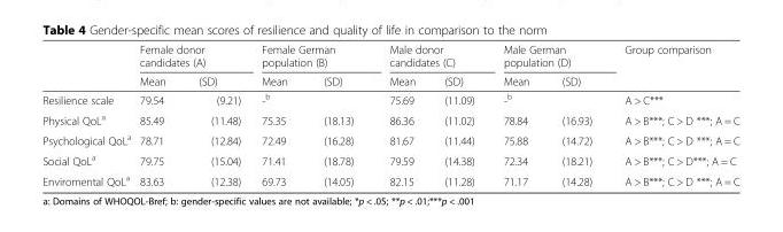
<table><thead><tr><td rowspan="2"></td><td colspan="2">Female donor candidates (A)</td><td colspan="2">Female German population (B)</td><td colspan="2">Male donor candidates (C)</td><td colspan="2">Male German population (D)</td><td rowspan="2">Group comparison</td></tr><tr><td>Mean</td><td>(SD)</td><td>Mean</td><td>(SD)</td><td>Mean</td><td>(SD)</td><td>Mean</td><td>(SD)</td></tr></thead><tbody><tr><td>Resilience scale</td><td>79.54</td><td>(9.21)</td><td colspan="2">-<sup>b</sup></td><td>75.69</td><td>(11.09)</td><td colspan="2">-<sup>b</sup></td><td>A &gt; C***</td></tr><tr><td>Physical QoL<sup>a</sup></td><td>85.49</td><td>(11.48)</td><td>75.35</td><td>(18.13)</td><td>86.36</td><td>(11.02)</td><td>78.84</td><td>(16.93)</td><td>A &gt; B***; C &gt; D ***; A = C</td></tr><tr><td>Psychological QoL<sup>a</sup></td><td>78.71</td><td>(12.84)</td><td>72.49</td><td>(16.28)</td><td>81.67</td><td>(11.44)</td><td>75.88</td><td>(14.72)</td><td>A &gt; B***; C &gt; D ***; A = C</td></tr><tr><td>Social QoL<sup>a</sup></td><td>79.75</td><td>(15.04)</td><td>71.41</td><td>(18.78)</td><td>79.59</td><td>(14.38)</td><td>72.34</td><td>(18.21)</td><td>A &gt; B***; C &gt; D***; A = C</td></tr><tr><td>Enviromental QoL<sup>a</sup></td><td>83.63</td><td>(12.38)</td><td>69.73</td><td>(14.05)</td><td>82.15</td><td>(11.28)</td><td>71.17</td><td>(14.28)</td><td>A &gt; B***; C &gt; D ***; A = C</td></tr></tbody></table>